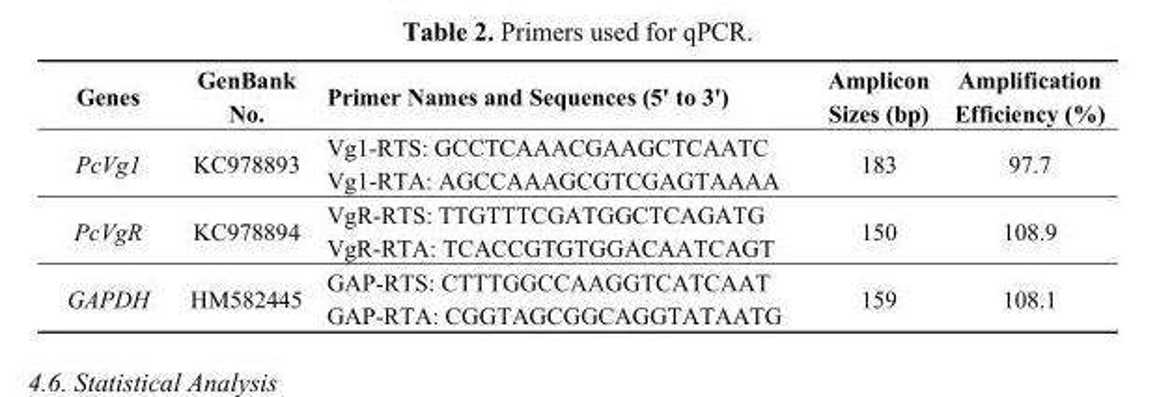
<table><thead><tr><td>Genes</td><td>GenBank No.</td><td>Primer Names and Sequences (5&#x27; to 3&#x27;)</td><td>Amplicon Sizes (bp)</td><td>Amplification Efficiency (%)</td></tr></thead><tbody><tr><td rowspan="2">PcVg1</td><td rowspan="2">KC978893</td><td>Vg1-RTS: GCCTCAAACGAAGCTCAATC</td><td rowspan="2">183</td><td rowspan="2">97.7</td></tr><tr><td>Vg1-RTA: AGCCAAAGCGTCGAGTAAAA</td></tr><tr><td rowspan="2">PcVgR</td><td rowspan="2">KC978894</td><td>VgR-RTS: TTGTTTCGATGGCTCAGATG</td><td rowspan="2">150</td><td rowspan="2">108.9</td></tr><tr><td>VgR-RTA: TCACCGTGTGGACAATCAGT</td></tr><tr><td rowspan="2">GAPDH</td><td rowspan="2">HM582445</td><td>GAP-RTS: CTTTGGCCAAGGTCATCAAT</td><td rowspan="2">159</td><td rowspan="2">108.1</td></tr><tr><td>GAP-RTA: CGGTAGCGGCAGGTATAATG</td></tr></tbody></table>